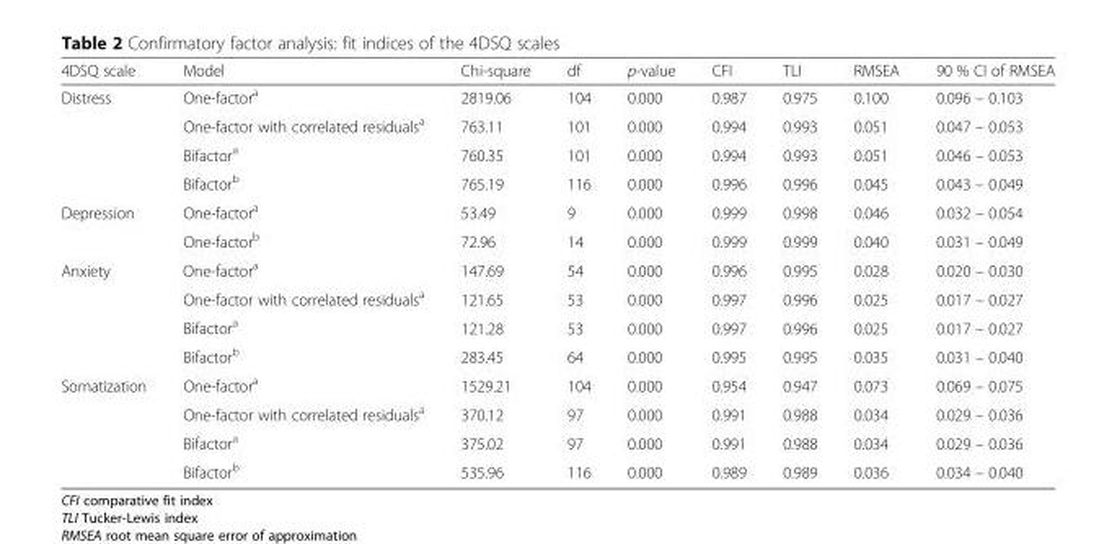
<table><thead><tr><td>4DSQ scale</td><td>Model</td><td>Chi-square</td><td>df</td><td>p-value</td><td>CFI</td><td>TLI</td><td>RMSEA</td><td>90 % CI of RMSEA</td></tr></thead><tbody><tr><td rowspan="4">Distress</td><td>One-factor<sup>a</sup></td><td>2819.06</td><td>104</td><td>0.000</td><td>0.987</td><td>0.975</td><td>0.100</td><td>0.096 – 0.103</td></tr><tr><td>One-factor with correlated residuals<sup>a</sup></td><td>763.11</td><td>101</td><td>0.000</td><td>0.994</td><td>0.993</td><td>0.051</td><td>0.047 – 0.053</td></tr><tr><td>Bifactor<sup>a</sup></td><td>760.35</td><td>101</td><td>0.000</td><td>0.994</td><td>0.993</td><td>0.051</td><td>0.046 – 0.053</td></tr><tr><td>Bifactor<sup>b</sup></td><td>765.19</td><td>116</td><td>0.000</td><td>0.996</td><td>0.996</td><td>0.045</td><td>0.043 – 0.049</td></tr><tr><td rowspan="2">Depression</td><td>One-factor<sup>a</sup></td><td>53.49</td><td>9</td><td>0.000</td><td>0.999</td><td>0.998</td><td>0.046</td><td>0.032 – 0.054</td></tr><tr><td>One-factor<sup>b</sup></td><td>72.96</td><td>14</td><td>0.000</td><td>0.999</td><td>0.999</td><td>0.040</td><td>0.031 – 0.049</td></tr><tr><td rowspan="4">Anxiety</td><td>One-factor<sup>a</sup></td><td>147.69</td><td>54</td><td>0.000</td><td>0.996</td><td>0.995</td><td>0.028</td><td>0.020 – 0.030</td></tr><tr><td>One-factor with correlated residuals<sup>a</sup></td><td>121.65</td><td>53</td><td>0.000</td><td>0.997</td><td>0.996</td><td>0.025</td><td>0.017 – 0.027</td></tr><tr><td>Bifactor<sup>a</sup></td><td>121.28</td><td>53</td><td>0.000</td><td>0.997</td><td>0.996</td><td>0.025</td><td>0.017 – 0.027</td></tr><tr><td>Bifactor<sup>b</sup></td><td>283.45</td><td>64</td><td>0.000</td><td>0.995</td><td>0.995</td><td>0.035</td><td>0.031 – 0.040</td></tr><tr><td rowspan="4">Somatization</td><td>One-factor<sup>a</sup></td><td>1529.21</td><td>104</td><td>0.000</td><td>0.954</td><td>0.947</td><td>0.073</td><td>0.069 – 0.075</td></tr><tr><td>One-factor with correlated residuals<sup>a</sup></td><td>370.12</td><td>97</td><td>0.000</td><td>0.991</td><td>0.988</td><td>0.034</td><td>0.029 – 0.036</td></tr><tr><td>Bifactor<sup>a</sup></td><td>375.02</td><td>97</td><td>0.000</td><td>0.991</td><td>0.988</td><td>0.034</td><td>0.029 – 0.036</td></tr><tr><td>Bifactor<sup>b</sup></td><td>535.96</td><td>116</td><td>0.000</td><td>0.989</td><td>0.989</td><td>0.036</td><td>0.034 – 0.040</td></tr></tbody></table>